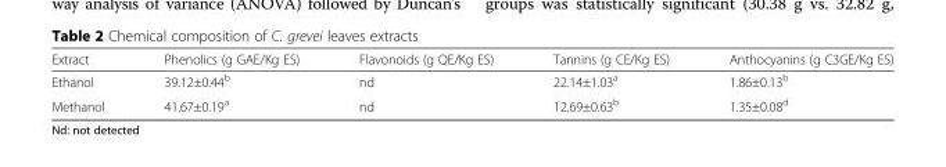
<table><thead><tr><td>Extract</td><td>Phenolics (g GAE/Kg ES)</td><td>Flavonoids (g QE/Kg ES)</td><td>Tannins (g CE/Kg ES)</td><td>Anthocyanins (g C3GE/Kg ES)</td></tr></thead><tbody><tr><td>Ethanol</td><td>39.12±0.44<sup>b</sup></td><td>nd</td><td>22.14±1.03<sup>a</sup></td><td>1.86±0.13<sup>b</sup></td></tr><tr><td>Methanol</td><td>41.67±0.19<sup>a</sup></td><td>nd</td><td>12.69±0.63<sup>b</sup></td><td>1.35±0.08<sup>d</sup></td></tr></tbody></table>